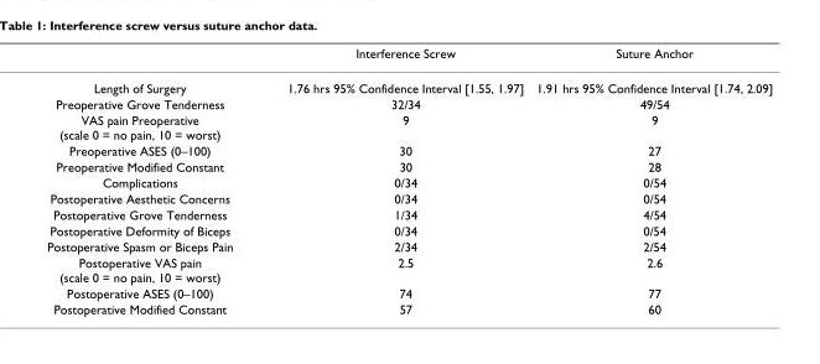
<table><thead><tr><td></td><td>Interference Screw</td><td>Suture Anchor</td></tr></thead><tbody><tr><td>Length of Surgery</td><td>1.76 hrs 95% Confidence Interval [1.55, 1.97]</td><td>1.91 hrs 95% Confidence Interval [1.74, 2.09]</td></tr><tr><td>Preoperative Grove Tenderness</td><td>32/34</td><td>49/54</td></tr><tr><td>VAS pain Preoperative (scale 0 = no pain, 10 = worst)</td><td>9</td><td>9</td></tr><tr><td>Preoperative ASES (0–100)</td><td>30</td><td>27</td></tr><tr><td>Preoperative Modified Constant</td><td>30</td><td>28</td></tr><tr><td>Complications</td><td>0/34</td><td>0/54</td></tr><tr><td>Postoperative Aesthetic Concerns</td><td>0/34</td><td>0/54</td></tr><tr><td>Postoperative Grove Tenderness</td><td>1/34</td><td>4/54</td></tr><tr><td>Postoperative Deformity of Biceps</td><td>0/34</td><td>0/54</td></tr><tr><td>Postoperative Spasm or Biceps Pain</td><td>2/34</td><td>2/54</td></tr><tr><td>Postoperative VAS pain (scale 0 = no pain, 10 = worst)</td><td>2.5</td><td>2.6</td></tr><tr><td>Postoperative ASES (0–100)</td><td>74</td><td>77</td></tr><tr><td>Postoperative Modified Constant</td><td>57</td><td>60</td></tr></tbody></table>